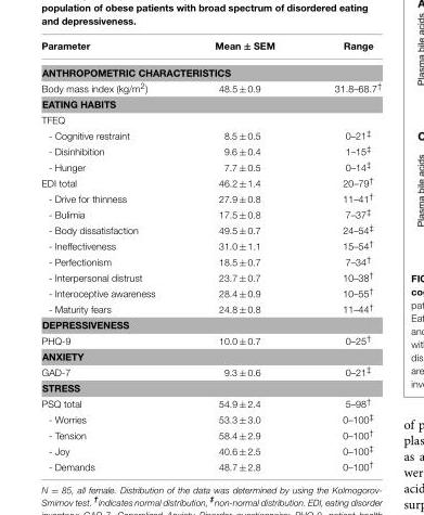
<table><thead><tr><td>Parameter</td><td>Mean ± SEM</td><td>Range</td></tr></thead><tbody><tr><td colspan="3">ANTHROPOMETRIC CHARACTERISTICS</td></tr><tr><td>Body mass index (kg/m<sup>2</sup>)</td><td>48.5 ± 0.9</td><td>31.8–68.7<sup>†</sup></td></tr><tr><td colspan="3">EATING HABITS</td></tr><tr><td colspan="3">TFEQ</td></tr><tr><td>- Cognitive restraint</td><td>8.5 ± 0.5</td><td>0–21<sup>‡</sup></td></tr><tr><td>- Disinhibition</td><td>9.6 ± 0.4</td><td>1–15<sup>‡</sup></td></tr><tr><td>- Hunger</td><td>7.7 ± 0.5</td><td>0–14<sup>‡</sup></td></tr><tr><td>EDI total</td><td>46.2 ± 1.4</td><td>20–79<sup>†</sup></td></tr><tr><td>- Drive for thinness</td><td>27.9 ± 0.8</td><td>11–41<sup>†</sup></td></tr><tr><td>- Bulimia</td><td>17.5 ± 0.8</td><td>7–37<sup>‡</sup></td></tr><tr><td>- Body dissatisfaction</td><td>49.5 ± 0.7</td><td>24–54<sup>‡</sup></td></tr><tr><td>- Ineffectiveness</td><td>31.0 ± 1.1</td><td>15–54<sup>†</sup></td></tr><tr><td>- Perfectionism</td><td>18.5 ± 0.7</td><td>7–34<sup>†</sup></td></tr><tr><td>- Interpersonal distrust</td><td>23.7 ± 0.7</td><td>10–38<sup>†</sup></td></tr><tr><td>- Interoceptive awareness</td><td>28.4 ± 0.9</td><td>10–55<sup>†</sup></td></tr><tr><td>- Maturity fears</td><td>24.8 ± 0.8</td><td>11–44<sup>†</sup></td></tr><tr><td colspan="3">DEPRESSIVENESS</td></tr><tr><td>PHQ-9</td><td>10.0 ± 0.7</td><td>0–25<sup>†</sup></td></tr><tr><td colspan="3">ANXIETY</td></tr><tr><td>GAD-7</td><td>9.3 ± 0.6</td><td>0–21<sup>‡</sup></td></tr><tr><td colspan="3">STRESS</td></tr><tr><td>PSQ total</td><td>54.9 ± 2.4</td><td>5–98<sup>†</sup></td></tr><tr><td>- Worries</td><td>53.3 ± 3.0</td><td>0–100<sup>‡</sup></td></tr><tr><td>- Tension</td><td>58.4 ± 2.9</td><td>0–100<sup>†</sup></td></tr><tr><td>- Joy</td><td>40.6 ± 2.5</td><td>0–100<sup>‡</sup></td></tr><tr><td>- Demands</td><td>48.7 ± 2.8</td><td>0–100<sup>†</sup></td></tr></tbody></table>